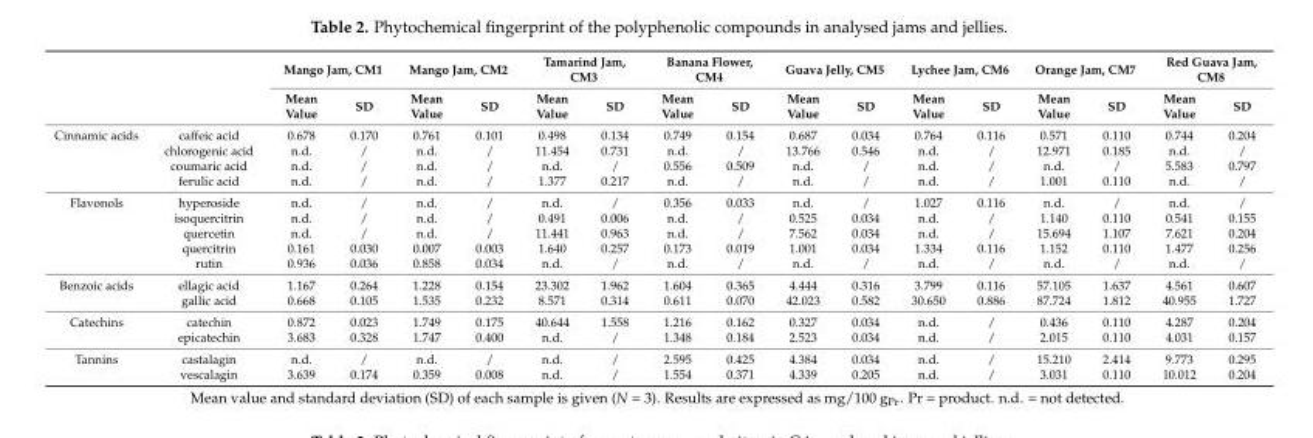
<table><thead><tr><td rowspan="2"></td><td rowspan="2"></td><td colspan="2">Mango Jam, CM1</td><td colspan="2">Mango Jam, CM2</td><td colspan="2">Tamarind Jam, CM3</td><td colspan="2">Banana Flower, CM4</td><td colspan="2">Guava Jelly, CM5</td><td colspan="2">Lychee Jam, CM6</td><td colspan="2">Orange Jam, CM7</td><td colspan="2">Red Guava Jam, CM8</td></tr><tr><td>Mean Value</td><td>SD</td><td>Mean Value</td><td>SD</td><td>Mean Value</td><td>SD</td><td>Mean Value</td><td>SD</td><td>Mean Value</td><td>SD</td><td>Mean Value</td><td>SD</td><td>Mean Value</td><td>SD</td><td>Mean Value</td><td>SD</td></tr></thead><tbody><tr><td rowspan="4">Cinnamic acids</td><td>caffeic acid</td><td>0.678</td><td>0.170</td><td>0.761</td><td>0.101</td><td>0.498</td><td>0.134</td><td>0.749</td><td>0.154</td><td>0.687</td><td>0.034</td><td>0.764</td><td>0.116</td><td>0.571</td><td>0.110</td><td>0.744</td><td>0.204</td></tr><tr><td>chlorogenic acid</td><td>n.d.</td><td>/</td><td>n.d.</td><td>/</td><td>11.454</td><td>0.731</td><td>n.d.</td><td>/</td><td>13.766</td><td>0.546</td><td>n.d.</td><td>/</td><td>12.971</td><td>0.185</td><td>n.d.</td><td>/</td></tr><tr><td>coumaric acid</td><td>n.d.</td><td>/</td><td>n.d.</td><td>/</td><td>n.d.</td><td>/</td><td>0.556</td><td>0.509</td><td>n.d.</td><td>/</td><td>n.d.</td><td>/</td><td>n.d.</td><td>/</td><td>5.583</td><td>0.797</td></tr><tr><td>ferulic acid</td><td>n.d.</td><td>/</td><td>n.d.</td><td>/</td><td>1.377</td><td>0.217</td><td>n.d.</td><td>/</td><td>n.d.</td><td>/</td><td>n.d.</td><td>/</td><td>1.001</td><td>0.110</td><td>n.d.</td><td>/</td></tr><tr><td rowspan="5">Flavonols</td><td>hyperoside</td><td>n.d.</td><td>/</td><td>n.d.</td><td>/</td><td>n.d.</td><td>/</td><td>0.356</td><td>0.033</td><td>n.d.</td><td>/</td><td>1.027</td><td>0.116</td><td>n.d.</td><td>/</td><td>n.d.</td><td>/</td></tr><tr><td>isoquercitrin</td><td>n.d.</td><td>/</td><td>n.d.</td><td>/</td><td>0.491</td><td>0.006</td><td>n.d.</td><td>/</td><td>0.525</td><td>0.034</td><td>n.d.</td><td>/</td><td>1.140</td><td>0.110</td><td>0.541</td><td>0.155</td></tr><tr><td>quercetin</td><td>n.d.</td><td>/</td><td>n.d.</td><td>/</td><td>11.441</td><td>0.963</td><td>n.d.</td><td>/</td><td>7.562</td><td>0.034</td><td>n.d.</td><td>/</td><td>15.694</td><td>1.107</td><td>7.621</td><td>0.204</td></tr><tr><td>quercitrin</td><td>0.161</td><td>0.030</td><td>0.007</td><td>0.003</td><td>1.640</td><td>0.257</td><td>0.173</td><td>0.019</td><td>1.001</td><td>0.034</td><td>1.334</td><td>0.116</td><td>1.152</td><td>0.110</td><td>1.477</td><td>0.256</td></tr><tr><td>rutin</td><td>0.936</td><td>0.036</td><td>0.858</td><td>0.034</td><td>n.d.</td><td>/</td><td>n.d.</td><td>/</td><td>n.d.</td><td>/</td><td>n.d.</td><td>/</td><td>n.d.</td><td>/</td><td>n.d.</td><td>/</td></tr><tr><td rowspan="2">Benzoic acids</td><td>ellagic acid</td><td>1.167</td><td>0.264</td><td>1.228</td><td>0.154</td><td>23.302</td><td>1.962</td><td>1.604</td><td>0.365</td><td>4.444</td><td>0.316</td><td>3.799</td><td>0.116</td><td>57.105</td><td>1.637</td><td>4.561</td><td>0.607</td></tr><tr><td>gallic acid</td><td>0.668</td><td>0.105</td><td>1.535</td><td>0.232</td><td>8.571</td><td>0.314</td><td>0.611</td><td>0.070</td><td>42.023</td><td>0.582</td><td>30.650</td><td>0.886</td><td>87.724</td><td>1.812</td><td>40.955</td><td>1.727</td></tr><tr><td rowspan="2">Catechins</td><td>catechin</td><td>0.872</td><td>0.023</td><td>1.749</td><td>0.175</td><td>40.644</td><td>1.558</td><td>1.216</td><td>0.162</td><td>0.327</td><td>0.034</td><td>n.d.</td><td>/</td><td>0.436</td><td>0.110</td><td>4.287</td><td>0.204</td></tr><tr><td>epicatechin</td><td>3.683</td><td>0.328</td><td>1.747</td><td>0.400</td><td>n.d.</td><td>/</td><td>1.348</td><td>0.184</td><td>2.523</td><td>0.034</td><td>n.d.</td><td>/</td><td>2.015</td><td>0.110</td><td>4.031</td><td>0.157</td></tr><tr><td rowspan="2">Tannins</td><td>castalagin</td><td>n.d.</td><td>/</td><td>n.d.</td><td>/</td><td>n.d.</td><td>/</td><td>2.595</td><td>0.425</td><td>4.384</td><td>0.034</td><td>n.d.</td><td>/</td><td>15.210</td><td>2.414</td><td>9.773</td><td>0.295</td></tr><tr><td>vescalagin</td><td>3.639</td><td>0.174</td><td>0.359</td><td>0.008</td><td>n.d.</td><td>/</td><td>1.554</td><td>0.371</td><td>4.339</td><td>0.205</td><td>n.d.</td><td>/</td><td>3.031</td><td>0.110</td><td>10.012</td><td>0.204</td></tr></tbody></table>